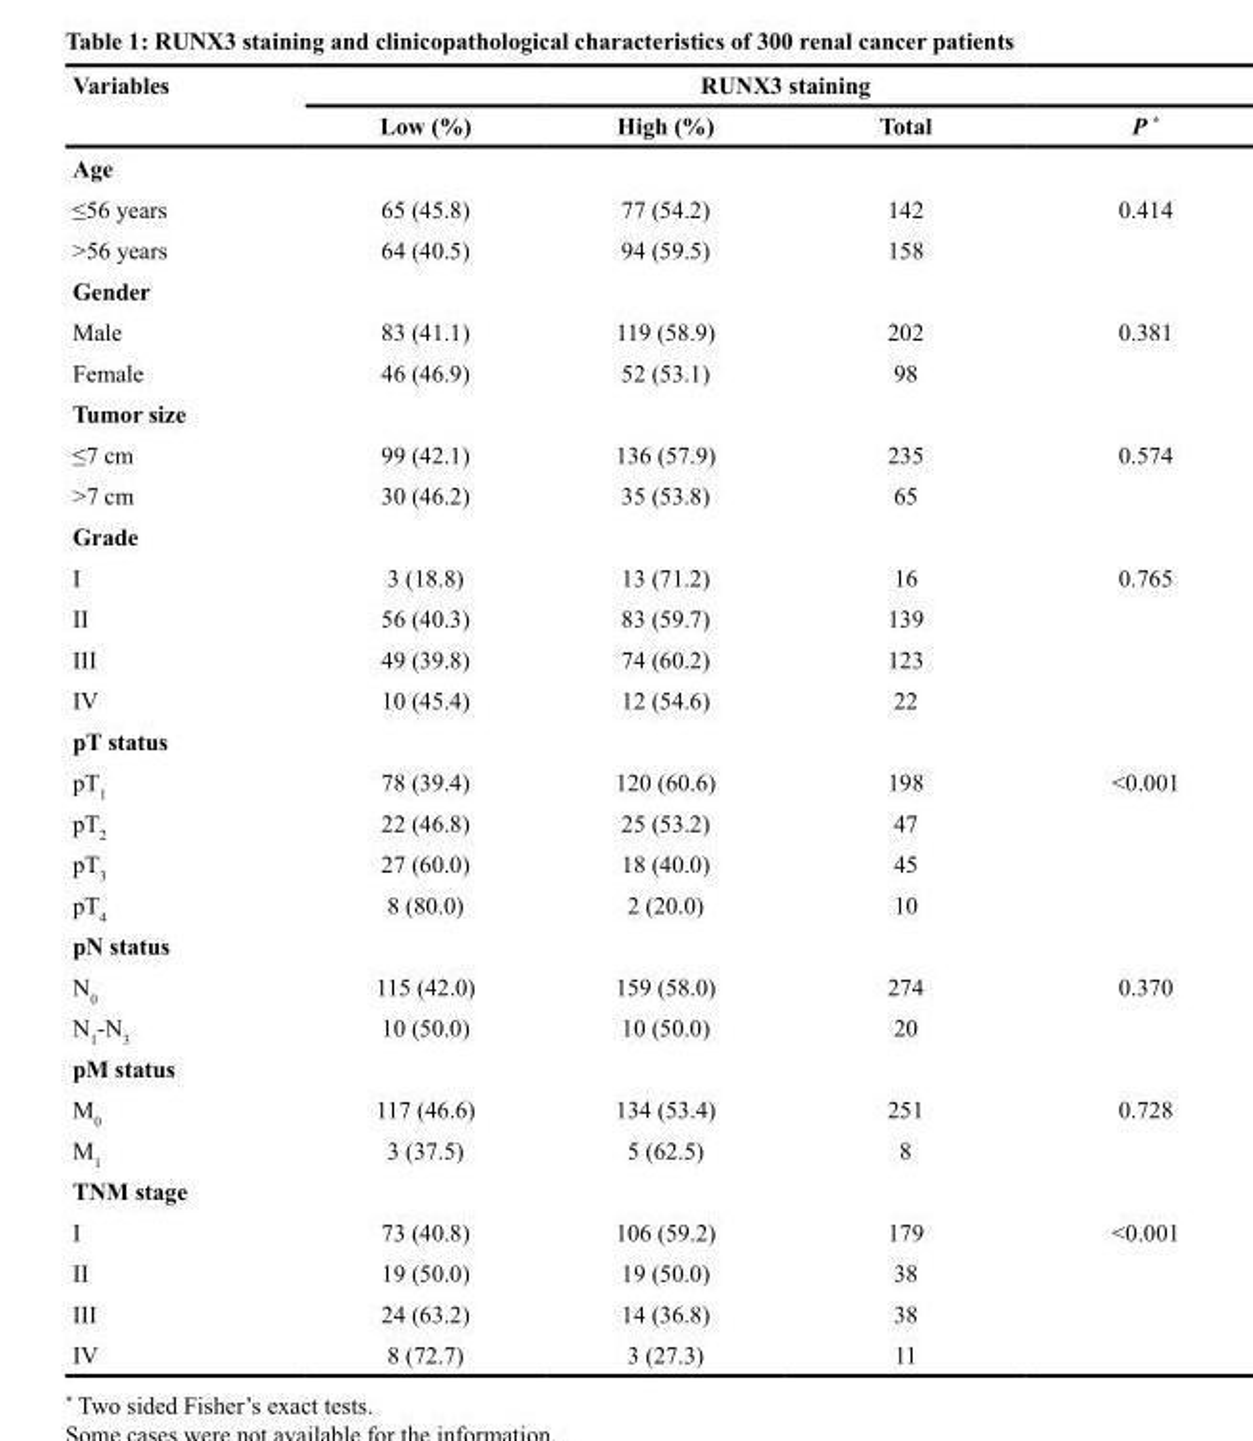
<table><thead><tr><td rowspan="2">Variables</td><td colspan="4">RUNX3 staining</td></tr><tr><td>Low (%)</td><td>High (%)</td><td>Total</td><td>P *</td></tr></thead><tbody><tr><td colspan="5">Age</td></tr><tr><td>≤56 years</td><td>65 (45.8)</td><td>77 (54.2)</td><td>142</td><td>0.414</td></tr><tr><td>&gt;56 years</td><td>64 (40.5)</td><td>94 (59.5)</td><td>158</td><td></td></tr><tr><td colspan="5">Gender</td></tr><tr><td>Male</td><td>83 (41.1)</td><td>119 (58.9)</td><td>202</td><td>0.381</td></tr><tr><td>Female</td><td>46 (46.9)</td><td>52 (53.1)</td><td>98</td><td></td></tr><tr><td colspan="5">Tumor size</td></tr><tr><td>≤7 cm</td><td>99 (42.1)</td><td>136 (57.9)</td><td>235</td><td>0.574</td></tr><tr><td>&gt;7 cm</td><td>30 (46.2)</td><td>35 (53.8)</td><td>65</td><td></td></tr><tr><td colspan="5">Grade</td></tr><tr><td>I</td><td>3 (18.8)</td><td>13 (71.2)</td><td>16</td><td>0.765</td></tr><tr><td>II</td><td>56 (40.3)</td><td>83 (59.7)</td><td>139</td><td></td></tr><tr><td>III</td><td>49 (39.8)</td><td>74 (60.2)</td><td>123</td><td></td></tr><tr><td>IV</td><td>10 (45.4)</td><td>12 (54.6)</td><td>22</td><td></td></tr><tr><td colspan="5">pT status</td></tr><tr><td>pT<sub>1</sub></td><td>78 (39.4)</td><td>120 (60.6)</td><td>198</td><td>&lt;0.001</td></tr><tr><td>pT<sub>2</sub></td><td>22 (46.8)</td><td>25 (53.2)</td><td>47</td><td></td></tr><tr><td>pT<sub>3</sub></td><td>27 (60.0)</td><td>18 (40.0)</td><td>45</td><td></td></tr><tr><td>pT<sub>4</sub></td><td>8 (80.0)</td><td>2 (20.0)</td><td>10</td><td></td></tr><tr><td colspan="5">pN status</td></tr><tr><td>N<sub>0</sub></td><td>115 (42.0)</td><td>159 (58.0)</td><td>274</td><td>0.370</td></tr><tr><td>N<sub>1</sub>-N<sub>3</sub></td><td>10 (50.0)</td><td>10 (50.0)</td><td>20</td><td></td></tr><tr><td colspan="5">pM status</td></tr><tr><td>M<sub>0</sub></td><td>117 (46.6)</td><td>134 (53.4)</td><td>251</td><td>0.728</td></tr><tr><td>M<sub>1</sub></td><td>3 (37.5)</td><td>5 (62.5)</td><td>8</td><td></td></tr><tr><td colspan="5">TNM stage</td></tr><tr><td>I</td><td>73 (40.8)</td><td>106 (59.2)</td><td>179</td><td>&lt;0.001</td></tr><tr><td>II</td><td>19 (50.0)</td><td>19 (50.0)</td><td>38</td><td></td></tr><tr><td>III</td><td>24 (63.2)</td><td>14 (36.8)</td><td>38</td><td></td></tr><tr><td>IV</td><td>8 (72.7)</td><td>3 (27.3)</td><td>11</td><td></td></tr></tbody></table>